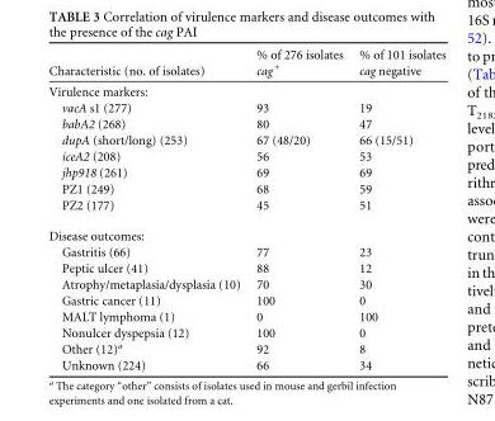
<table><thead><tr><td>Characteristic (no. of isolates)</td><td>% of 276 isolates cag<sup>+</sup></td><td>% of 101 isolates cag negative</td></tr></thead><tbody><tr><td colspan="3">Virulence markers:</td></tr><tr><td>vacA s1 (277)</td><td>93</td><td>19</td></tr><tr><td>babA2 (268)</td><td>80</td><td>47</td></tr><tr><td>dupA (short/long) (253)</td><td>67 (48/20)</td><td>66 (15/51)</td></tr><tr><td>iceA2 (208)</td><td>56</td><td>53</td></tr><tr><td>jhp918 (261)</td><td>69</td><td>69</td></tr><tr><td>PZ1 (249)</td><td>68</td><td>59</td></tr><tr><td>PZ2 (177)</td><td>45</td><td>51</td></tr><tr><td colspan="3">Disease outcomes:</td></tr><tr><td>Gastritis (66)</td><td>77</td><td>23</td></tr><tr><td>Peptic ulcer (41)</td><td>88</td><td>12</td></tr><tr><td>Atrophy/metaplasia/dysplasia (10)</td><td>70</td><td>30</td></tr><tr><td>Gastric cancer (11)</td><td>100</td><td>0</td></tr><tr><td>MALT lymphoma (1)</td><td>0</td><td>100</td></tr><tr><td>Nonulcer dyspepsia (12)</td><td>100</td><td>0</td></tr><tr><td>Other (12)<sup>a</sup></td><td>92</td><td>8</td></tr><tr><td>Unknown (224)</td><td>66</td><td>34</td></tr></tbody></table>